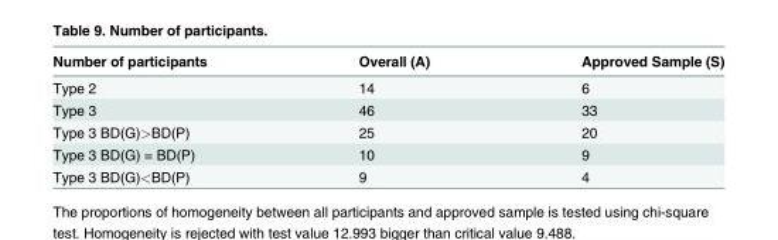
<table><thead><tr><td>Number of participants</td><td>Overall (A)</td><td>Approved Sample (S)</td></tr></thead><tbody><tr><td>Type 2</td><td>14</td><td>6</td></tr><tr><td>Type 3</td><td>46</td><td>33</td></tr><tr><td>Type 3 BD(G)&gt;BD(P)</td><td>25</td><td>20</td></tr><tr><td>Type 3 BD(G) = BD(P)</td><td>10</td><td>9</td></tr><tr><td>Type 3 BD(G)&lt;BD(P)</td><td>9</td><td>4</td></tr></tbody></table>